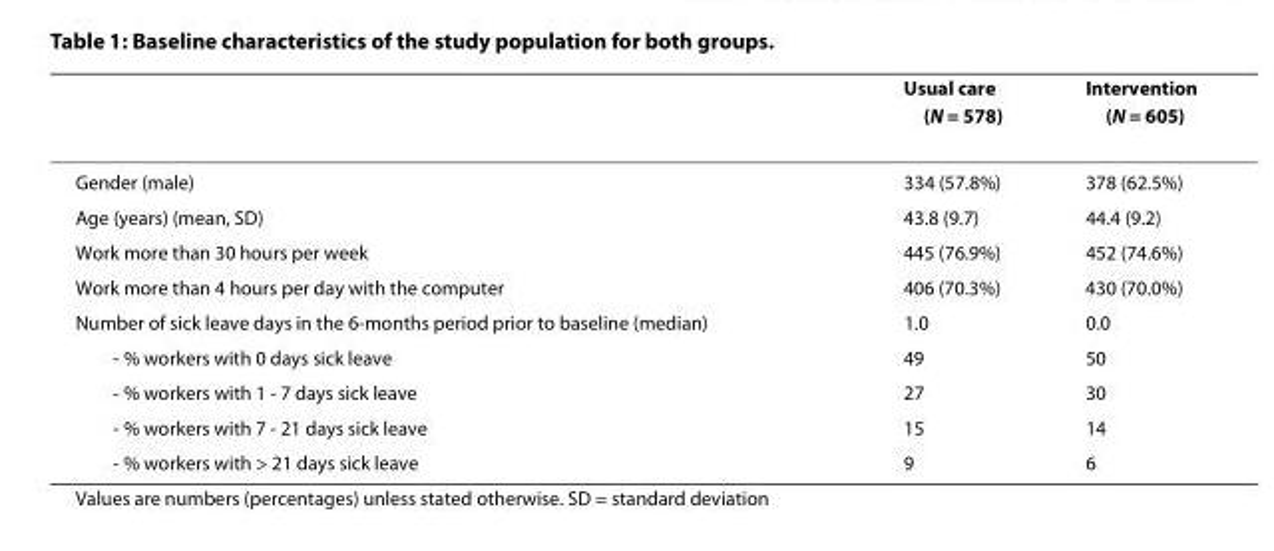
<table><thead><tr><td></td><td>Usual care (N = 578)</td><td>Intervention (N = 605)</td></tr></thead><tbody><tr><td>Gender (male)</td><td>334 (57.8%)</td><td>378 (62.5%)</td></tr><tr><td>Age (years) (mean, SD)</td><td>43.8 (9.7)</td><td>44.4 (9.2)</td></tr><tr><td>Work more than 30 hours per week</td><td>445 (76.9%)</td><td>452 (74.6%)</td></tr><tr><td>Work more than 4 hours per day with the computer</td><td>406 (70.3%)</td><td>430 (70.0%)</td></tr><tr><td>Number of sick leave days in the 6-months period prior to baseline (median)</td><td>1.0</td><td>0.0</td></tr><tr><td>- % workers with 0 days sick leave</td><td>49</td><td>50</td></tr><tr><td>- % workers with 1 - 7 days sick leave</td><td>27</td><td>30</td></tr><tr><td>- % workers with 7 - 21 days sick leave</td><td>15</td><td>14</td></tr><tr><td>- % workers with &gt; 21 days sick leave</td><td>9</td><td>6</td></tr></tbody></table>